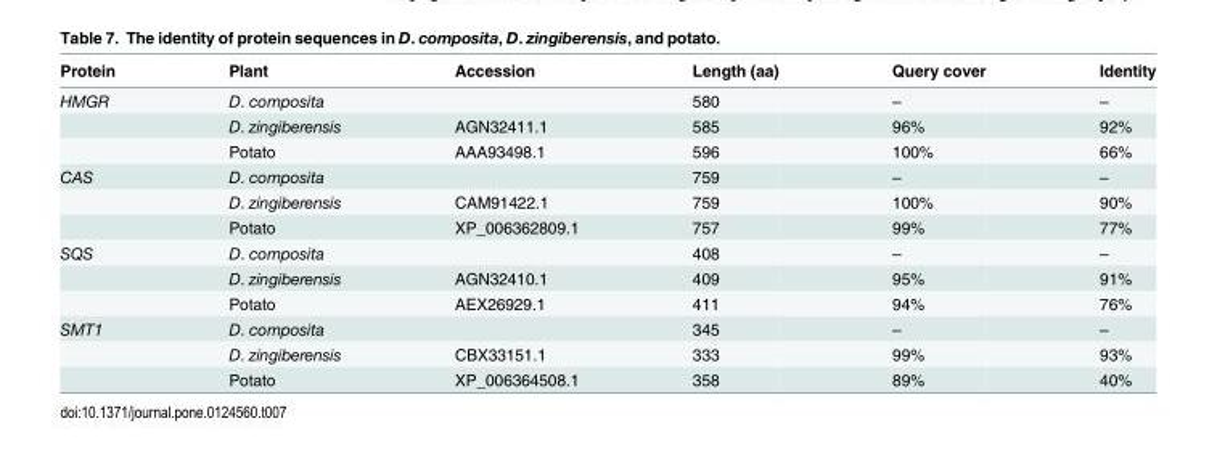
<table><thead><tr><td>Protein</td><td>Plant</td><td>Accession</td><td>Length (aa)</td><td>Query cover</td><td>Identity</td></tr></thead><tbody><tr><td rowspan="3">HMGR</td><td>D. composita</td><td></td><td>580</td><td>–</td><td>–</td></tr><tr><td>D. zingiberensis</td><td>AGN32411.1</td><td>585</td><td>96%</td><td>92%</td></tr><tr><td>Potato</td><td>AAA93498.1</td><td>596</td><td>100%</td><td>66%</td></tr><tr><td rowspan="3">CAS</td><td>D. composita</td><td></td><td>759</td><td>–</td><td>–</td></tr><tr><td>D. zingiberensis</td><td>CAM91422.1</td><td>759</td><td>100%</td><td>90%</td></tr><tr><td>Potato</td><td>XP_006362809.1</td><td>757</td><td>99%</td><td>77%</td></tr><tr><td rowspan="3">SQS</td><td>D. composita</td><td></td><td>408</td><td>–</td><td>–</td></tr><tr><td>D. zingiberensis</td><td>AGN32410.1</td><td>409</td><td>95%</td><td>91%</td></tr><tr><td>Potato</td><td>AEX26929.1</td><td>411</td><td>94%</td><td>76%</td></tr><tr><td rowspan="3">SMT1</td><td>D. composita</td><td></td><td>345</td><td>–</td><td>–</td></tr><tr><td>D. zingiberensis</td><td>CBX33151.1</td><td>333</td><td>99%</td><td>93%</td></tr><tr><td>Potato</td><td>XP_006364508.1</td><td>358</td><td>89%</td><td>40%</td></tr></tbody></table>